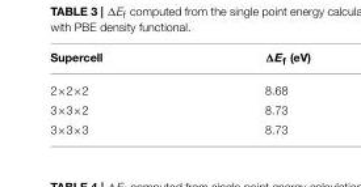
<table><thead><tr><td>Supercell</td><td>ΔE<sub>f</sub> (eV)</td></tr></thead><tbody><tr><td>2×2×2</td><td>8.68</td></tr><tr><td>3×3×2</td><td>8.73</td></tr><tr><td>3×3×3</td><td>8.73</td></tr></tbody></table>